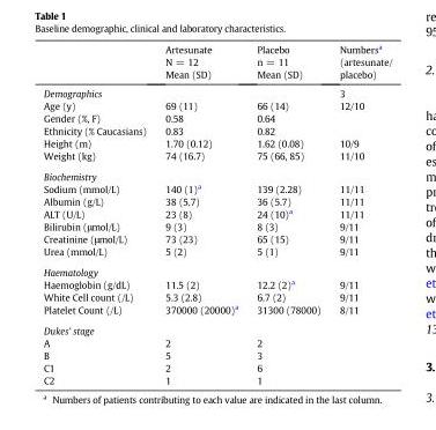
<table><thead><tr><td></td><td>Artesunate N = 12 Mean (SD)</td><td>Placebo n = 11 Mean (SD)</td><td>Numbers<sup>a</sup> (artesunate/ placebo)</td></tr></thead><tbody><tr><td>Demographics</td><td></td><td></td><td>3</td></tr><tr><td>Age (y)</td><td>69 (11)</td><td>66 (14)</td><td>12/10</td></tr><tr><td>Gender (%, F)</td><td>0.58</td><td>0.64</td><td></td></tr><tr><td>Ethnicity (% Caucasians)</td><td>0.83</td><td>0.82</td><td></td></tr><tr><td>Height (m)</td><td>1.70 (0.12)</td><td>1.62 (0.08)</td><td>10/9</td></tr><tr><td>Weight (kg)</td><td>74 (16.7)</td><td>75 (66, 85)</td><td>11/10</td></tr><tr><td colspan="4">Biochemistry</td></tr><tr><td>Sodium (mmol/L)</td><td>140 (1)<sup>a</sup></td><td>139 (2.28)</td><td>11/11</td></tr><tr><td>Albumin (g/L)</td><td>38 (5.7)</td><td>36 (5.7)</td><td>11/11</td></tr><tr><td>ALT (U/L)</td><td>23 (8)</td><td>24 (10)<sup>a</sup></td><td>11/11</td></tr><tr><td>Bilirubin (μmol/L)</td><td>9 (3)</td><td>8 (3)</td><td>9/11</td></tr><tr><td>Creatinine (μmol/L)</td><td>73 (23)</td><td>65 (15)</td><td>9/11</td></tr><tr><td>Urea (mmol/L)</td><td>5 (2)</td><td>5 (1)</td><td>9/11</td></tr><tr><td colspan="4">Haematology</td></tr><tr><td>Haemoglobin (g/dL)</td><td>11.5 (2)</td><td>12.2 (2)<sup>a</sup></td><td>9/11</td></tr><tr><td>White Cell count (/L)</td><td>5.3 (2.8)</td><td>6.7 (2)</td><td>9/11</td></tr><tr><td>Platelet Count (/L)</td><td>370000 (20000)<sup>a</sup></td><td>31300 (78000)</td><td>8/11</td></tr><tr><td colspan="4">Dukes&#x27; stage</td></tr><tr><td>A</td><td>2</td><td>2</td><td></td></tr><tr><td>B</td><td>5</td><td>3</td><td></td></tr><tr><td>C1</td><td>2</td><td>6</td><td></td></tr><tr><td>C2</td><td>1</td><td>1</td><td></td></tr></tbody></table>